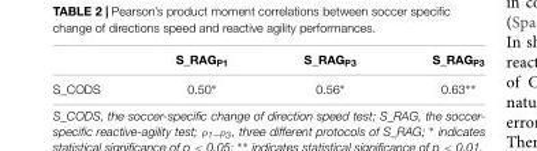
<table><thead><tr><td></td><td>S_RAG<sub>P1</sub></td><td>S_RAG<sub>P3</sub></td><td>S_RAG<sub>P3</sub></td></tr></thead><tbody><tr><td>S_CODS</td><td>0.50∗</td><td>0.56∗</td><td>0.63∗∗</td></tr></tbody></table>